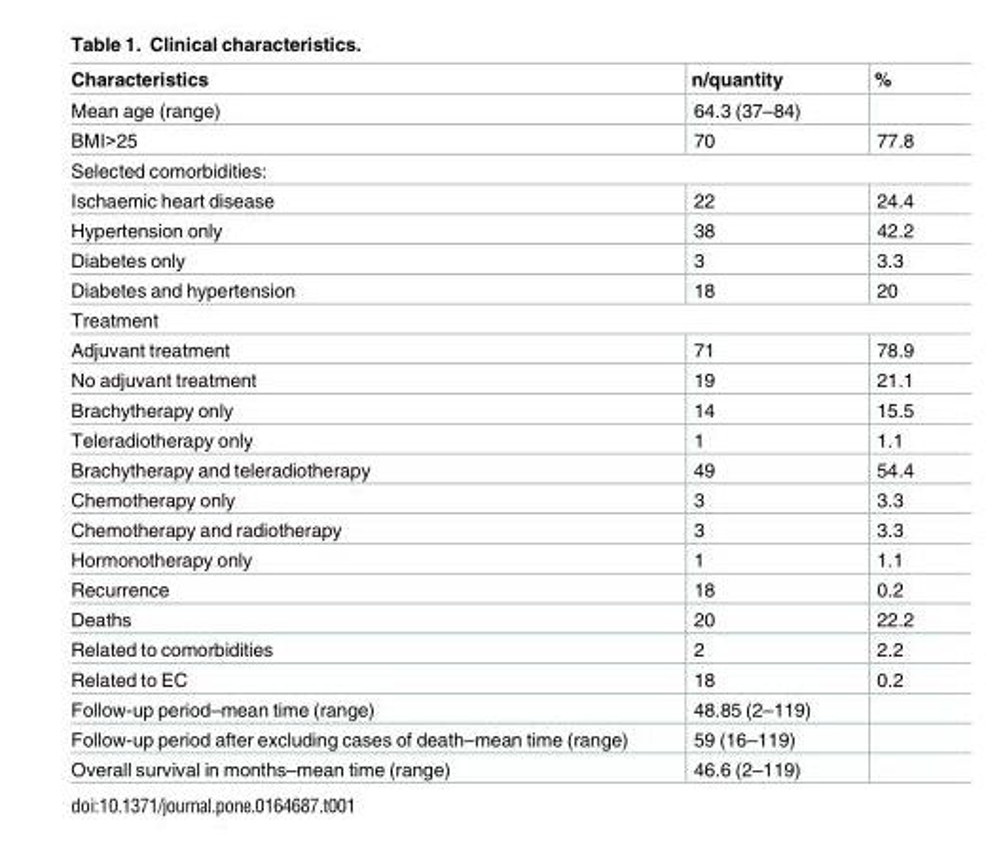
<table><thead><tr><td>Characteristics</td><td>n/quantity</td><td>%</td></tr></thead><tbody><tr><td>Mean age (range)</td><td>64.3 (37–84)</td><td></td></tr><tr><td>BMI&gt;25</td><td>70</td><td>77.8</td></tr><tr><td colspan="3">Selected comorbidities:</td></tr><tr><td>Ischaemic heart disease</td><td>22</td><td>24.4</td></tr><tr><td>Hypertension only</td><td>38</td><td>42.2</td></tr><tr><td>Diabetes only</td><td>3</td><td>3.3</td></tr><tr><td>Diabetes and hypertension</td><td>18</td><td>20</td></tr><tr><td colspan="3">Treatment</td></tr><tr><td>Adjuvant treatment</td><td>71</td><td>78.9</td></tr><tr><td>No adjuvant treatment</td><td>19</td><td>21.1</td></tr><tr><td>Brachytherapy only</td><td>14</td><td>15.5</td></tr><tr><td>Teleradiotherapy only</td><td>1</td><td>1.1</td></tr><tr><td>Brachytherapy and teleradiotherapy</td><td>49</td><td>54.4</td></tr><tr><td>Chemotherapy only</td><td>3</td><td>3.3</td></tr><tr><td>Chemotherapy and radiotherapy</td><td>3</td><td>3.3</td></tr><tr><td>Hormonotherapy only</td><td>1</td><td>1.1</td></tr><tr><td>Recurrence</td><td>18</td><td>0.2</td></tr><tr><td>Deaths</td><td>20</td><td>22.2</td></tr><tr><td>Related to comorbidities</td><td>2</td><td>2.2</td></tr><tr><td>Related to EC</td><td>18</td><td>0.2</td></tr><tr><td>Follow-up period–mean time (range)</td><td>48.85 (2–119)</td><td></td></tr><tr><td>Follow-up period after excluding cases of death–mean time (range)</td><td>59 (16–119)</td><td></td></tr><tr><td>Overall survival in months–mean time (range)</td><td>46.6 (2–119)</td><td></td></tr></tbody></table>